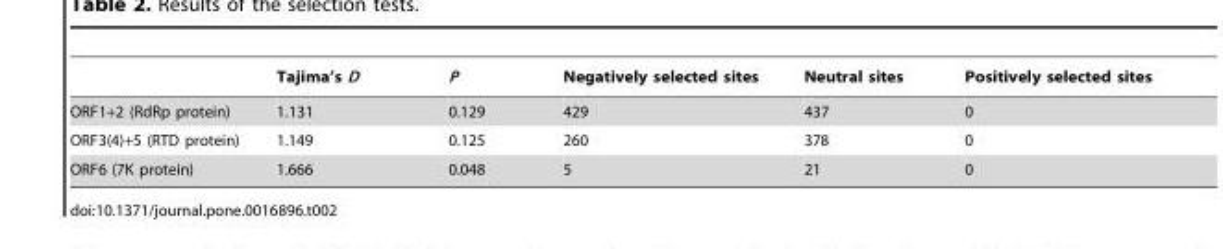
<table><thead><tr><td></td><td>Tajima’s D</td><td>P</td><td>Negatively selected sites</td><td>Neutral sites</td><td>Positively selected sites</td></tr></thead><tbody><tr><td>ORF1+2 (RdRp protein)</td><td>1.131</td><td>0.129</td><td>429</td><td>437</td><td>0</td></tr><tr><td>ORF3(4)+5 (RTD protein)</td><td>1.149</td><td>0.125</td><td>260</td><td>378</td><td>0</td></tr><tr><td>ORF6 (7K protein)</td><td>1.666</td><td>0.048</td><td>5</td><td>21</td><td>0</td></tr></tbody></table>